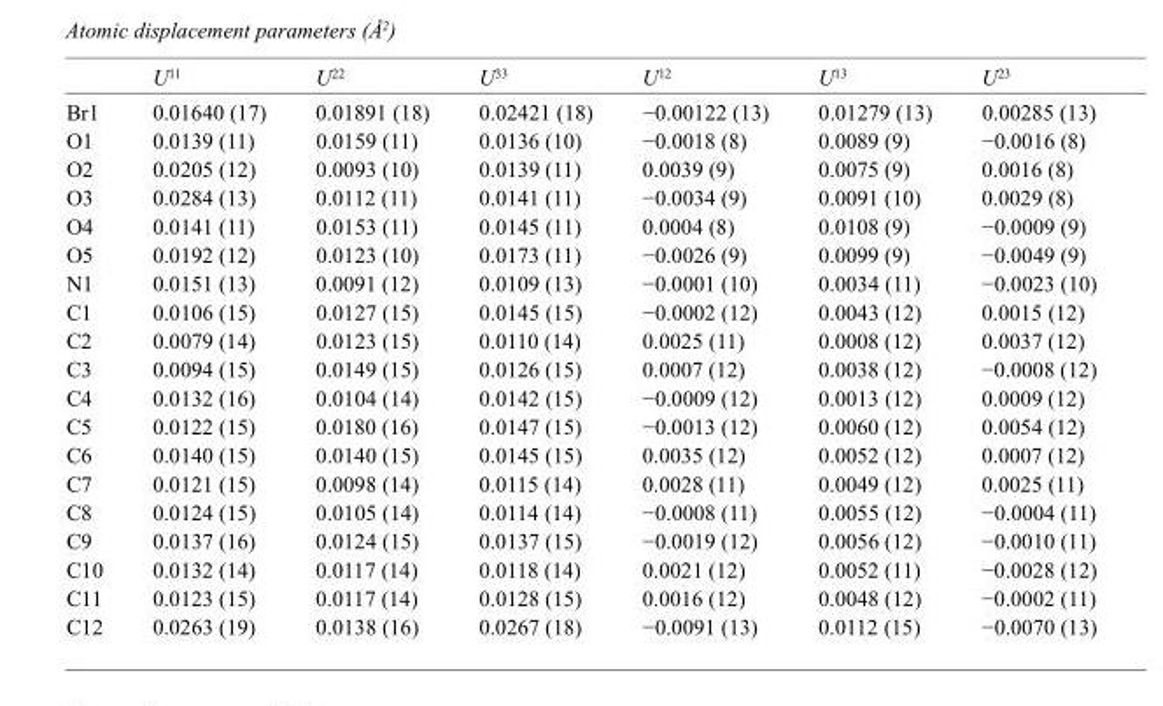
<table><thead><tr><td></td><td>U<sup>11</sup></td><td>U<sup>22</sup></td><td>U<sup>33</sup></td><td>U<sup>12</sup></td><td>U<sup>13</sup></td><td>U<sup>23</sup></td></tr></thead><tbody><tr><td>Br1</td><td>0.01640 (17)</td><td>0.01891 (18)</td><td>0.02421 (18)</td><td>−0.00122 (13)</td><td>0.01279 (13)</td><td>0.00285 (13)</td></tr><tr><td>O1</td><td>0.0139 (11)</td><td>0.0159 (11)</td><td>0.0136 (10)</td><td>−0.0018 (8)</td><td>0.0089 (9)</td><td>−0.0016 (8)</td></tr><tr><td>O2</td><td>0.0205 (12)</td><td>0.0093 (10)</td><td>0.0139 (11)</td><td>0.0039 (9)</td><td>0.0075 (9)</td><td>0.0016 (8)</td></tr><tr><td>O3</td><td>0.0284 (13)</td><td>0.0112 (11)</td><td>0.0141 (11)</td><td>−0.0034 (9)</td><td>0.0091 (10)</td><td>0.0029 (8)</td></tr><tr><td>O4</td><td>0.0141 (11)</td><td>0.0153 (11)</td><td>0.0145 (11)</td><td>0.0004 (8)</td><td>0.0108 (9)</td><td>−0.0009 (9)</td></tr><tr><td>O5</td><td>0.0192 (12)</td><td>0.0123 (10)</td><td>0.0173 (11)</td><td>−0.0026 (9)</td><td>0.0099 (9)</td><td>−0.0049 (9)</td></tr><tr><td>N1</td><td>0.0151 (13)</td><td>0.0091 (12)</td><td>0.0109 (13)</td><td>−0.0001 (10)</td><td>0.0034 (11)</td><td>−0.0023 (10)</td></tr><tr><td>C1</td><td>0.0106 (15)</td><td>0.0127 (15)</td><td>0.0145 (15)</td><td>−0.0002 (12)</td><td>0.0043 (12)</td><td>0.0015 (12)</td></tr><tr><td>C2</td><td>0.0079 (14)</td><td>0.0123 (15)</td><td>0.0110 (14)</td><td>0.0025 (11)</td><td>0.0008 (12)</td><td>0.0037 (12)</td></tr><tr><td>C3</td><td>0.0094 (15)</td><td>0.0149 (15)</td><td>0.0126 (15)</td><td>0.0007 (12)</td><td>0.0038 (12)</td><td>−0.0008 (12)</td></tr><tr><td>C4</td><td>0.0132 (16)</td><td>0.0104 (14)</td><td>0.0142 (15)</td><td>−0.0009 (12)</td><td>0.0013 (12)</td><td>0.0009 (12)</td></tr><tr><td>C5</td><td>0.0122 (15)</td><td>0.0180 (16)</td><td>0.0147 (15)</td><td>−0.0013 (12)</td><td>0.0060 (12)</td><td>0.0054 (12)</td></tr><tr><td>C6</td><td>0.0140 (15)</td><td>0.0140 (15)</td><td>0.0145 (15)</td><td>0.0035 (12)</td><td>0.0052 (12)</td><td>0.0007 (12)</td></tr><tr><td>C7</td><td>0.0121 (15)</td><td>0.0098 (14)</td><td>0.0115 (14)</td><td>0.0028 (11)</td><td>0.0049 (12)</td><td>0.0025 (11)</td></tr><tr><td>C8</td><td>0.0124 (15)</td><td>0.0105 (14)</td><td>0.0114 (14)</td><td>−0.0008 (11)</td><td>0.0055 (12)</td><td>−0.0004 (11)</td></tr><tr><td>C9</td><td>0.0137 (16)</td><td>0.0124 (15)</td><td>0.0137 (15)</td><td>−0.0019 (12)</td><td>0.0056 (12)</td><td>−0.0010 (11)</td></tr><tr><td>C10</td><td>0.0132 (14)</td><td>0.0117 (14)</td><td>0.0118 (14)</td><td>0.0021 (12)</td><td>0.0052 (11)</td><td>−0.0028 (12)</td></tr><tr><td>C11</td><td>0.0123 (15)</td><td>0.0117 (14)</td><td>0.0128 (15)</td><td>0.0016 (12)</td><td>0.0048 (12)</td><td>−0.0002 (11)</td></tr><tr><td>C12</td><td>0.0263 (19)</td><td>0.0138 (16)</td><td>0.0267 (18)</td><td>−0.0091 (13)</td><td>0.0112 (15)</td><td>−0.0070 (13)</td></tr></tbody></table>